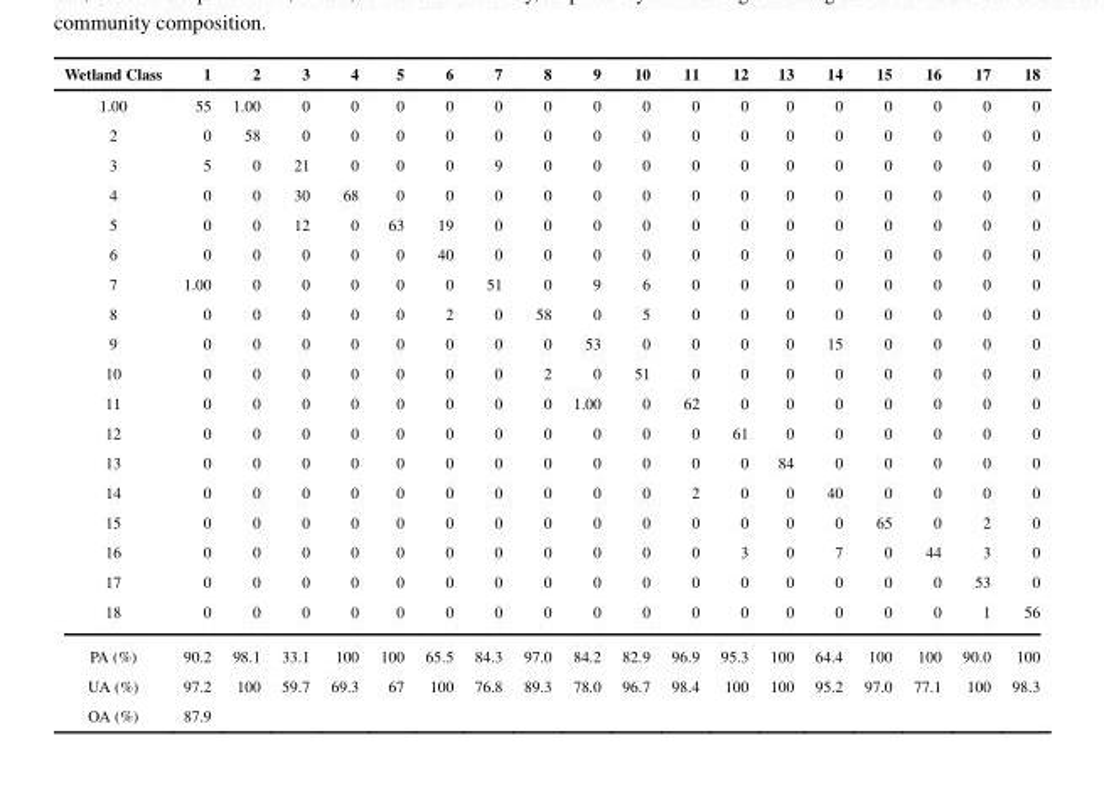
<table><thead><tr><td>Wetland Class</td><td>1</td><td>2</td><td>3</td><td>4</td><td>5</td><td>6</td><td>7</td><td>8</td><td>9</td><td>10</td><td>11</td><td>12</td><td>13</td><td>14</td><td>15</td><td>16</td><td>17</td><td>18</td></tr></thead><tbody><tr><td>1.00</td><td>55</td><td>1.00</td><td>0</td><td>0</td><td>0</td><td>0</td><td>0</td><td>0</td><td>0</td><td>0</td><td>0</td><td>0</td><td>0</td><td>0</td><td>0</td><td>0</td><td>0</td><td>0</td></tr><tr><td>2</td><td>0</td><td>58</td><td>0</td><td>0</td><td>0</td><td>0</td><td>0</td><td>0</td><td>0</td><td>0</td><td>0</td><td>0</td><td>0</td><td>0</td><td>0</td><td>0</td><td>0</td><td>0</td></tr><tr><td>3</td><td>5</td><td>0</td><td>21</td><td>0</td><td>0</td><td>0</td><td>9</td><td>0</td><td>0</td><td>0</td><td>0</td><td>0</td><td>0</td><td>0</td><td>0</td><td>0</td><td>0</td><td>0</td></tr><tr><td>4</td><td>0</td><td>0</td><td>30</td><td>68</td><td>0</td><td>0</td><td>0</td><td>0</td><td>0</td><td>0</td><td>0</td><td>0</td><td>0</td><td>0</td><td>0</td><td>0</td><td>0</td><td>0</td></tr><tr><td>5</td><td>0</td><td>0</td><td>12</td><td>0</td><td>63</td><td>19</td><td>0</td><td>0</td><td>0</td><td>0</td><td>0</td><td>0</td><td>0</td><td>0</td><td>0</td><td>0</td><td>0</td><td>0</td></tr><tr><td>6</td><td>0</td><td>0</td><td>0</td><td>0</td><td>0</td><td>40</td><td>0</td><td>0</td><td>0</td><td>0</td><td>0</td><td>0</td><td>0</td><td>0</td><td>0</td><td>0</td><td>0</td><td>0</td></tr><tr><td>7</td><td>1.00</td><td>0</td><td>0</td><td>0</td><td>0</td><td>0</td><td>51</td><td>0</td><td>9</td><td>6</td><td>0</td><td>0</td><td>0</td><td>0</td><td>0</td><td>0</td><td>0</td><td>0</td></tr><tr><td>8</td><td>0</td><td>0</td><td>0</td><td>0</td><td>0</td><td>2</td><td>0</td><td>58</td><td>0</td><td>5</td><td>0</td><td>0</td><td>0</td><td>0</td><td>0</td><td>0</td><td>0</td><td>0</td></tr><tr><td>9</td><td>0</td><td>0</td><td>0</td><td>0</td><td>0</td><td>0</td><td>0</td><td>0</td><td>53</td><td>0</td><td>0</td><td>0</td><td>0</td><td>15</td><td>0</td><td>0</td><td>0</td><td>0</td></tr><tr><td>10</td><td>0</td><td>0</td><td>0</td><td>0</td><td>0</td><td>0</td><td>0</td><td>2</td><td>0</td><td>51</td><td>0</td><td>0</td><td>0</td><td>0</td><td>0</td><td>0</td><td>0</td><td>0</td></tr><tr><td>11</td><td>0</td><td>0</td><td>0</td><td>0</td><td>0</td><td>0</td><td>0</td><td>0</td><td>1.00</td><td>0</td><td>62</td><td>0</td><td>0</td><td>0</td><td>0</td><td>0</td><td>0</td><td>0</td></tr><tr><td>12</td><td>0</td><td>0</td><td>0</td><td>0</td><td>0</td><td>0</td><td>0</td><td>0</td><td>0</td><td>0</td><td>0</td><td>61</td><td>0</td><td>0</td><td>0</td><td>0</td><td>0</td><td>0</td></tr><tr><td>13</td><td>0</td><td>0</td><td>0</td><td>0</td><td>0</td><td>0</td><td>0</td><td>0</td><td>0</td><td>0</td><td>0</td><td>0</td><td>84</td><td>0</td><td>0</td><td>0</td><td>0</td><td>0</td></tr><tr><td>14</td><td>0</td><td>0</td><td>0</td><td>0</td><td>0</td><td>0</td><td>0</td><td>0</td><td>0</td><td>0</td><td>2</td><td>0</td><td>0</td><td>40</td><td>0</td><td>0</td><td>0</td><td>0</td></tr><tr><td>15</td><td>0</td><td>0</td><td>0</td><td>0</td><td>0</td><td>0</td><td>0</td><td>0</td><td>0</td><td>0</td><td>0</td><td>0</td><td>0</td><td>0</td><td>65</td><td>0</td><td>2</td><td>0</td></tr><tr><td>16</td><td>0</td><td>0</td><td>0</td><td>0</td><td>0</td><td>0</td><td>0</td><td>0</td><td>0</td><td>0</td><td>0</td><td>3</td><td>0</td><td>7</td><td>0</td><td>44</td><td>3</td><td>0</td></tr><tr><td>17</td><td>0</td><td>0</td><td>0</td><td>0</td><td>0</td><td>0</td><td>0</td><td>0</td><td>0</td><td>0</td><td>0</td><td>0</td><td>0</td><td>0</td><td>0</td><td>0</td><td>53</td><td>0</td></tr><tr><td>18</td><td>0</td><td>0</td><td>0</td><td>0</td><td>0</td><td>0</td><td>0</td><td>0</td><td>0</td><td>0</td><td>0</td><td>0</td><td>0</td><td>0</td><td>0</td><td>0</td><td>1</td><td>56</td></tr><tr><td>PA (%)</td><td>90.2</td><td>98.1</td><td>33.1</td><td>100</td><td>100</td><td>65.5</td><td>84.3</td><td>97.0</td><td>84.2</td><td>82.9</td><td>96.9</td><td>95.3</td><td>100</td><td>64.4</td><td>100</td><td>100</td><td>90.0</td><td>100</td></tr><tr><td>UA (%)</td><td>97.2</td><td>100</td><td>59.7</td><td>69.3</td><td>67</td><td>100</td><td>76.8</td><td>89.3</td><td>78.0</td><td>96.7</td><td>98.4</td><td>100</td><td>100</td><td>95.2</td><td>97.0</td><td>77.1</td><td>100</td><td>98.3</td></tr><tr><td>OA (%)</td><td>87.9</td><td></td><td></td><td></td><td></td><td></td><td></td><td></td><td></td><td></td><td></td><td></td><td></td><td></td><td></td><td></td><td></td><td></td></tr></tbody></table>